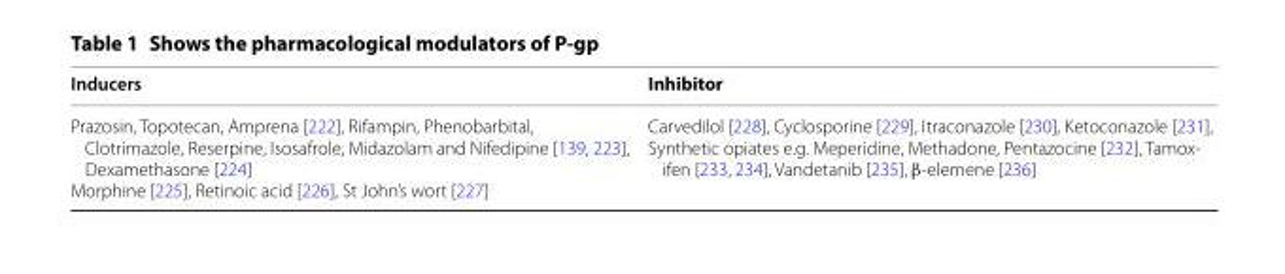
<table><thead><tr><td>Inducers</td><td>Inhibitor</td></tr></thead><tbody><tr><td>Prazosin, Topotecan, Amprena [222], Rifampin, Phenobarbital, Clotrimazole, Reserpine, Isosafrole, Midazolam and Nifedipine [139, 223], Dexamethasone [224] Morphine [225], Retinoic acid [226], St John’s wort [227]</td><td>Carvedilol [228], Cyclosporine [229], Itraconazole [230], Ketoconazole [231], Synthetic opiates e.g. Meperidine, Methadone, Pentazocine [232], Tamox‑ ifen [233, 234], Vandetanib [235], β‑elemene [236]</td></tr></tbody></table>